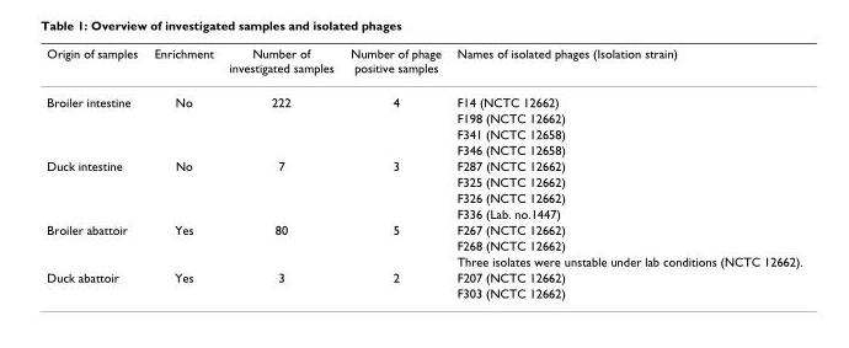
<table><thead><tr><td>Origin of samples</td><td>Enrichment</td><td>Number of investigated samples</td><td>Number of phage positive samples</td><td>Names of isolated phages (Isolation strain)</td></tr></thead><tbody><tr><td rowspan="4">Broiler intestine</td><td>No</td><td>222</td><td>4</td><td>F14 (NCTC 12662)</td></tr><tr><td></td><td></td><td></td><td>F198 (NCTC 12662)</td></tr><tr><td></td><td></td><td></td><td>F341 (NCTC 12658)</td></tr><tr><td></td><td></td><td></td><td>F346 (NCTC 12658)</td></tr><tr><td rowspan="4">Duck intestine</td><td>No</td><td>7</td><td>3</td><td>F287 (NCTC 12662)</td></tr><tr><td></td><td></td><td></td><td>F325 (NCTC 12662)</td></tr><tr><td></td><td></td><td></td><td>F326 (NCTC 12662)</td></tr><tr><td></td><td></td><td></td><td>F336 (Lab. no.1447)</td></tr><tr><td rowspan="3">Broiler abattoir</td><td>Yes</td><td>80</td><td>5</td><td>F267 (NCTC 12662)</td></tr><tr><td></td><td></td><td></td><td>F268 (NCTC 12662)</td></tr><tr><td></td><td></td><td></td><td>Three isolates were unstable under lab conditions (NCTC 12662).</td></tr><tr><td rowspan="2">Duck abattoir</td><td>Yes</td><td>3</td><td>2</td><td>F207 (NCTC 12662)</td></tr><tr><td></td><td></td><td></td><td>F303 (NCTC 12662)</td></tr></tbody></table>